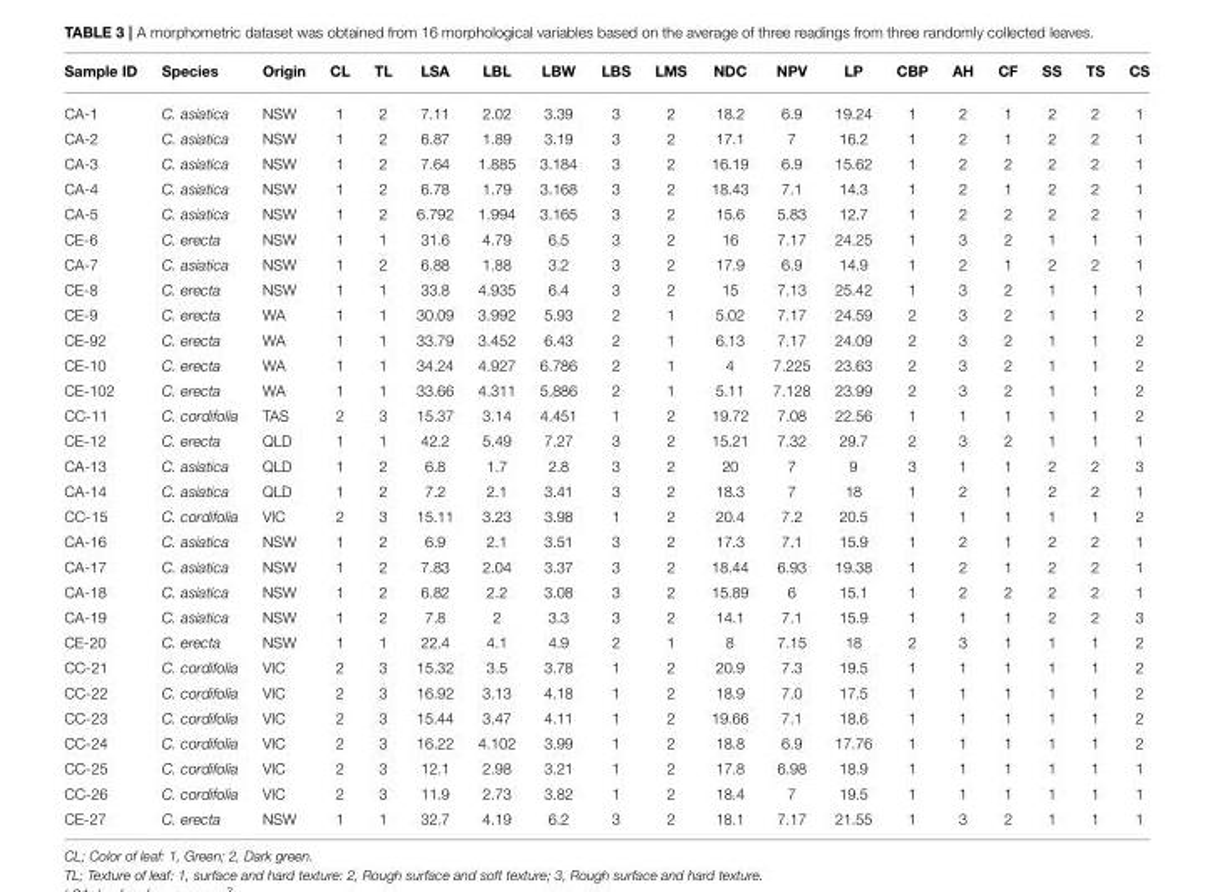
<table><thead><tr><td>Sample ID</td><td>Species</td><td>Origin</td><td>CL</td><td>TL</td><td>LSA</td><td>LBL</td><td>LBW</td><td>LBS</td><td>LMS</td><td>NDC</td><td>NPV</td><td>LP</td><td>CBP</td><td>AH</td><td>CF</td><td>SS</td><td>TS</td><td>CS</td></tr></thead><tbody><tr><td>CA-1</td><td>C. asiatica</td><td>NSW</td><td>1</td><td>2</td><td>7.11</td><td>2.02</td><td>3.39</td><td>3</td><td>2</td><td>18.2</td><td>6.9</td><td>19.24</td><td>1</td><td>2</td><td>1</td><td>2</td><td>2</td><td>1</td></tr><tr><td>CA-2</td><td>C. asiatica</td><td>NSW</td><td>1</td><td>2</td><td>6.87</td><td>1.89</td><td>3.19</td><td>3</td><td>2</td><td>17.1</td><td>7</td><td>16.2</td><td>1</td><td>2</td><td>1</td><td>2</td><td>2</td><td>1</td></tr><tr><td>CA-3</td><td>C. asiatica</td><td>NSW</td><td>1</td><td>2</td><td>7.64</td><td>1.885</td><td>3.184</td><td>3</td><td>2</td><td>16.19</td><td>6.9</td><td>15.62</td><td>1</td><td>2</td><td>2</td><td>2</td><td>2</td><td>1</td></tr><tr><td>CA-4</td><td>C. asiatica</td><td>NSW</td><td>1</td><td>2</td><td>6.78</td><td>1.79</td><td>3.168</td><td>3</td><td>2</td><td>18.43</td><td>7.1</td><td>14.3</td><td>1</td><td>2</td><td>1</td><td>2</td><td>2</td><td>1</td></tr><tr><td>CA-5</td><td>C. asiatica</td><td>NSW</td><td>1</td><td>2</td><td>6.792</td><td>1.994</td><td>3.165</td><td>3</td><td>2</td><td>15.6</td><td>5.83</td><td>12.7</td><td>1</td><td>2</td><td>2</td><td>2</td><td>2</td><td>1</td></tr><tr><td>CE-6</td><td>C. erecta</td><td>NSW</td><td>1</td><td>1</td><td>31.6</td><td>4.79</td><td>6.5</td><td>3</td><td>2</td><td>16</td><td>7.17</td><td>24.25</td><td>1</td><td>3</td><td>2</td><td>1</td><td>1</td><td>1</td></tr><tr><td>CA-7</td><td>C. asiatica</td><td>NSW</td><td>1</td><td>2</td><td>6.88</td><td>1.88</td><td>3.2</td><td>3</td><td>2</td><td>17.9</td><td>6.9</td><td>14.9</td><td>1</td><td>2</td><td>1</td><td>2</td><td>2</td><td>1</td></tr><tr><td>CE-8</td><td>C. erecta</td><td>NSW</td><td>1</td><td>1</td><td>33.8</td><td>4.935</td><td>6.4</td><td>3</td><td>2</td><td>15</td><td>7.13</td><td>25.42</td><td>1</td><td>3</td><td>2</td><td>1</td><td>1</td><td>1</td></tr><tr><td>CE-9</td><td>C. erecta</td><td>WA</td><td>1</td><td>1</td><td>30.09</td><td>3.992</td><td>5.93</td><td>2</td><td>1</td><td>5.02</td><td>7.17</td><td>24.59</td><td>2</td><td>3</td><td>2</td><td>1</td><td>1</td><td>2</td></tr><tr><td>CE-92</td><td>C. erecta</td><td>WA</td><td>1</td><td>1</td><td>33.79</td><td>3.452</td><td>6.43</td><td>2</td><td>1</td><td>6.13</td><td>7.17</td><td>24.09</td><td>2</td><td>3</td><td>2</td><td>1</td><td>1</td><td>2</td></tr><tr><td>CE-10</td><td>C. erecta</td><td>WA</td><td>1</td><td>1</td><td>34.24</td><td>4.927</td><td>6.786</td><td>2</td><td>1</td><td>4</td><td>7.225</td><td>23.63</td><td>2</td><td>3</td><td>2</td><td>1</td><td>1</td><td>2</td></tr><tr><td>CE-102</td><td>C. erecta</td><td>WA</td><td>1</td><td>1</td><td>33.66</td><td>4.311</td><td>5.886</td><td>2</td><td>1</td><td>5.11</td><td>7.128</td><td>23.99</td><td>2</td><td>3</td><td>2</td><td>1</td><td>1</td><td>2</td></tr><tr><td>CC-11</td><td>C. cordifolia</td><td>TAS</td><td>2</td><td>3</td><td>15.37</td><td>3.14</td><td>4.451</td><td>1</td><td>2</td><td>19.72</td><td>7.08</td><td>22.56</td><td>1</td><td>1</td><td>1</td><td>1</td><td>1</td><td>2</td></tr><tr><td>CE-12</td><td>C. erecta</td><td>QLD</td><td>1</td><td>1</td><td>42.2</td><td>5.49</td><td>7.27</td><td>3</td><td>2</td><td>15.21</td><td>7.32</td><td>29.7</td><td>2</td><td>3</td><td>2</td><td>1</td><td>1</td><td>1</td></tr><tr><td>CA-13</td><td>C. asiatica</td><td>QLD</td><td>1</td><td>2</td><td>6.8</td><td>1.7</td><td>2.8</td><td>3</td><td>2</td><td>20</td><td>7</td><td>9</td><td>3</td><td>1</td><td>1</td><td>2</td><td>2</td><td>3</td></tr><tr><td>CA-14</td><td>C. asiatica</td><td>QLD</td><td>1</td><td>2</td><td>7.2</td><td>2.1</td><td>3.41</td><td>3</td><td>2</td><td>18.3</td><td>7</td><td>18</td><td>1</td><td>2</td><td>1</td><td>2</td><td>2</td><td>1</td></tr><tr><td>CC-15</td><td>C. cordifolia</td><td>VIC</td><td>2</td><td>3</td><td>15.11</td><td>3.23</td><td>3.98</td><td>1</td><td>2</td><td>20.4</td><td>7.2</td><td>20.5</td><td>1</td><td>1</td><td>1</td><td>1</td><td>1</td><td>2</td></tr><tr><td>CA-16</td><td>C. asiatica</td><td>NSW</td><td>1</td><td>2</td><td>6.9</td><td>2.1</td><td>3.51</td><td>3</td><td>2</td><td>17.3</td><td>7.1</td><td>15.9</td><td>1</td><td>2</td><td>1</td><td>2</td><td>2</td><td>1</td></tr><tr><td>CA-17</td><td>C. asiatica</td><td>NSW</td><td>1</td><td>2</td><td>7.83</td><td>2.04</td><td>3.37</td><td>3</td><td>2</td><td>18.44</td><td>6.93</td><td>19.38</td><td>1</td><td>2</td><td>1</td><td>2</td><td>2</td><td>1</td></tr><tr><td>CA-18</td><td>C. asiatica</td><td>NSW</td><td>1</td><td>2</td><td>6.82</td><td>2.2</td><td>3.08</td><td>3</td><td>2</td><td>15.89</td><td>6</td><td>15.1</td><td>1</td><td>2</td><td>2</td><td>2</td><td>2</td><td>1</td></tr><tr><td>CA-19</td><td>C. asiatica</td><td>NSW</td><td>1</td><td>2</td><td>7.8</td><td>2</td><td>3.3</td><td>3</td><td>2</td><td>14.1</td><td>7.1</td><td>15.9</td><td>1</td><td>1</td><td>1</td><td>2</td><td>2</td><td>3</td></tr><tr><td>CE-20</td><td>C. erecta</td><td>NSW</td><td>1</td><td>1</td><td>22.4</td><td>4.1</td><td>4.9</td><td>2</td><td>1</td><td>8</td><td>7.15</td><td>18</td><td>2</td><td>3</td><td>1</td><td>1</td><td>1</td><td>2</td></tr><tr><td>CC-21</td><td>C. cordifolia</td><td>VIC</td><td>2</td><td>3</td><td>15.32</td><td>3.5</td><td>3.78</td><td>1</td><td>2</td><td>20.9</td><td>7.3</td><td>19.5</td><td>1</td><td>1</td><td>1</td><td>1</td><td>1</td><td>2</td></tr><tr><td>CC-22</td><td>C. cordifolia</td><td>VIC</td><td>2</td><td>3</td><td>16.92</td><td>3.13</td><td>4.18</td><td>1</td><td>2</td><td>18.9</td><td>7.0</td><td>17.5</td><td>1</td><td>1</td><td>1</td><td>1</td><td>1</td><td>2</td></tr><tr><td>CC-23</td><td>C. cordifolia</td><td>VIC</td><td>2</td><td>3</td><td>15.44</td><td>3.47</td><td>4.11</td><td>1</td><td>2</td><td>19.66</td><td>7.1</td><td>18.6</td><td>1</td><td>1</td><td>1</td><td>1</td><td>1</td><td>2</td></tr><tr><td>CC-24</td><td>C. cordifolia</td><td>VIC</td><td>2</td><td>3</td><td>16.22</td><td>4.102</td><td>3.99</td><td>1</td><td>2</td><td>18.8</td><td>6.9</td><td>17.76</td><td>1</td><td>1</td><td>1</td><td>1</td><td>1</td><td>2</td></tr><tr><td>CC-25</td><td>C. cordifolia</td><td>VIC</td><td>2</td><td>3</td><td>12.1</td><td>2.98</td><td>3.21</td><td>1</td><td>2</td><td>17.8</td><td>6.98</td><td>18.9</td><td>1</td><td>1</td><td>1</td><td>1</td><td>1</td><td>1</td></tr><tr><td>CC-26</td><td>C. cordifolia</td><td>VIC</td><td>2</td><td>3</td><td>11.9</td><td>2.73</td><td>3.82</td><td>1</td><td>2</td><td>18.4</td><td>7</td><td>19.5</td><td>1</td><td>1</td><td>1</td><td>1</td><td>1</td><td>1</td></tr><tr><td>CE-27</td><td>C. erecta</td><td>NSW</td><td>1</td><td>1</td><td>32.7</td><td>4.19</td><td>6.2</td><td>3</td><td>2</td><td>18.1</td><td>7.17</td><td>21.55</td><td>1</td><td>3</td><td>2</td><td>1</td><td>1</td><td>1</td></tr></tbody></table>